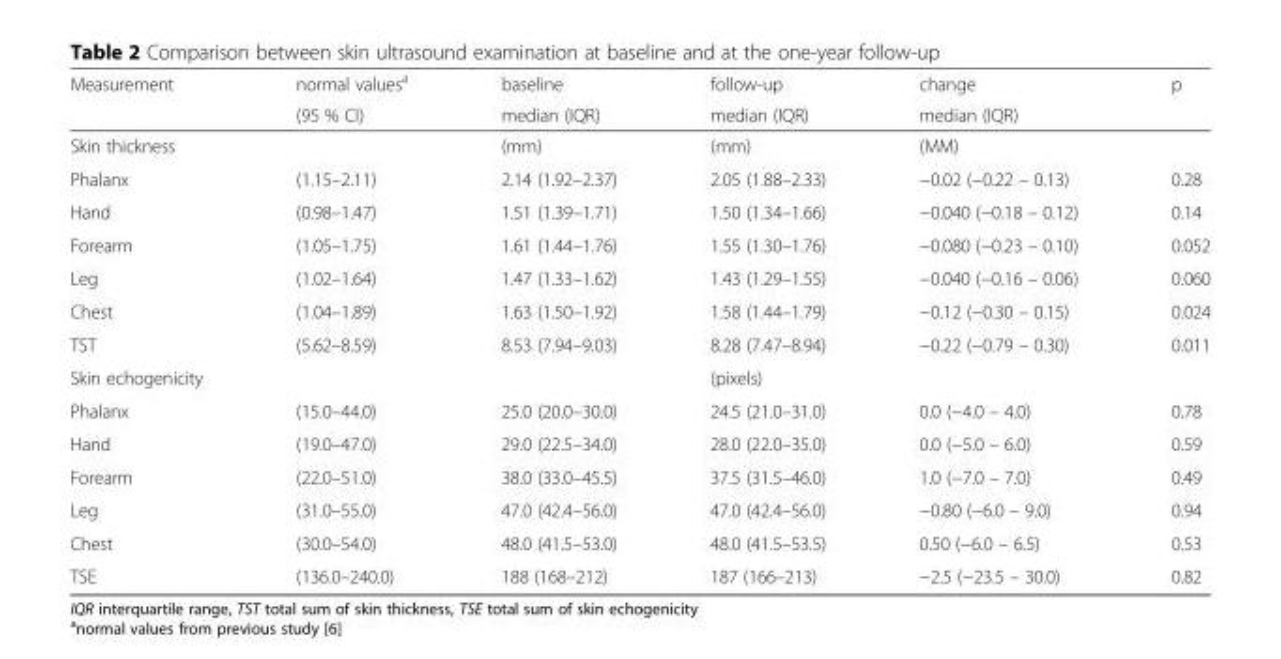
<table><thead><tr><td rowspan="2">Measurement</td><td rowspan="2">normal values<sup>a</sup> (95 % CI)</td><td rowspan="2">baseline median (IQR)</td><td rowspan="2">follow-up median (IQR)</td><td rowspan="2">change median (IQR)</td><td rowspan="2">p</td></tr><tr></tr></thead><tbody><tr><td>Skin thickness</td><td></td><td>(mm)</td><td>(mm)</td><td>(MM)</td><td></td></tr><tr><td>Phalanx</td><td>(1.15–2.11)</td><td>2.14 (1.92–2.37)</td><td>2.05 (1.88–2.33)</td><td>−0.02 (−0.22 – 0.13)</td><td>0.28</td></tr><tr><td>Hand</td><td>(0.98–1.47)</td><td>1.51 (1.39–1.71)</td><td>1.50 (1.34–1.66)</td><td>−0.040 (−0.18 – 0.12)</td><td>0.14</td></tr><tr><td>Forearm</td><td>(1.05–1.75)</td><td>1.61 (1.44–1.76)</td><td>1.55 (1.30–1.76)</td><td>−0.080 (−0.23 – 0.10)</td><td>0.052</td></tr><tr><td>Leg</td><td>(1.02–1.64)</td><td>1.47 (1.33–1.62)</td><td>1.43 (1.29–1.55)</td><td>−0.040 (−0.16 – 0.06)</td><td>0.060</td></tr><tr><td>Chest</td><td>(1.04–1.89)</td><td>1.63 (1.50–1.92)</td><td>1.58 (1.44–1.79)</td><td>−0.12 (−0.30 – 0.15)</td><td>0.024</td></tr><tr><td>TST</td><td>(5.62–8.59)</td><td>8.53 (7.94–9.03)</td><td>8.28 (7.47–8.94)</td><td>−0.22 (−0.79 – 0.30)</td><td>0.011</td></tr><tr><td>Skin echogenicity</td><td></td><td></td><td>(pixels)</td><td></td><td></td></tr><tr><td>Phalanx</td><td>(15.0–44.0)</td><td>25.0 (20.0–30.0)</td><td>24.5 (21.0–31.0)</td><td>0.0 (−4.0 – 4.0)</td><td>0.78</td></tr><tr><td>Hand</td><td>(19.0–47.0)</td><td>29.0 (22.5–34.0)</td><td>28.0 (22.0–35.0)</td><td>0.0 (−5.0 – 6.0)</td><td>0.59</td></tr><tr><td>Forearm</td><td>(22.0–51.0)</td><td>38.0 (33.0–45.5)</td><td>37.5 (31.5–46.0)</td><td>1.0 (−7.0 – 7.0)</td><td>0.49</td></tr><tr><td>Leg</td><td>(31.0–55.0)</td><td>47.0 (42.4–56.0)</td><td>47.0 (42.4–56.0)</td><td>−0.80 (−6.0 – 9.0)</td><td>0.94</td></tr><tr><td>Chest</td><td>(30.0–54.0)</td><td>48.0 (41.5–53.0)</td><td>48.0 (41.5–53.5)</td><td>0.50 (−6.0 – 6.5)</td><td>0.53</td></tr><tr><td>TSE</td><td>(136.0–240.0)</td><td>188 (168–212)</td><td>187 (166–213)</td><td>−2.5 (−23.5 – 30.0)</td><td>0.82</td></tr></tbody></table>